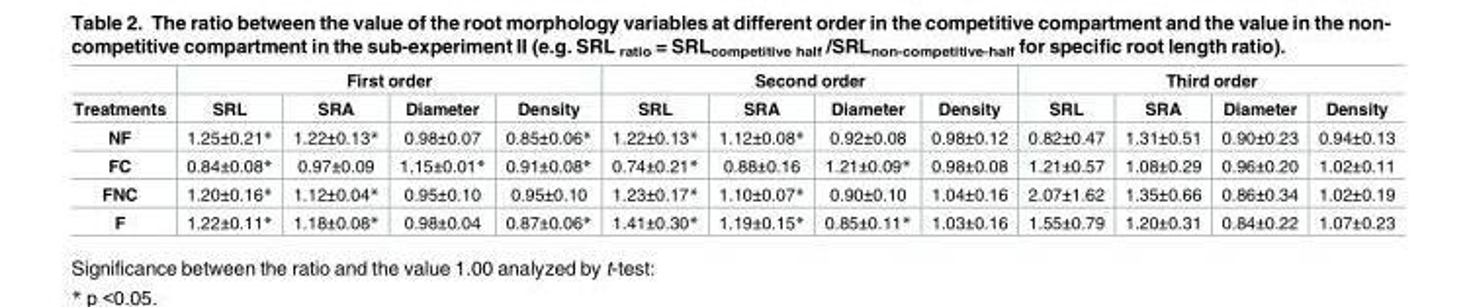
<table><thead><tr><td rowspan="2">Treatments</td><td colspan="4">First order</td><td colspan="4">Second order</td><td colspan="4">Third order</td></tr><tr><td>SRL</td><td>SRA</td><td>Diameter</td><td>Density</td><td>SRL</td><td>SRA</td><td>Diameter</td><td>Density</td><td>SRL</td><td>SRA</td><td>Diameter</td><td>Density</td></tr></thead><tbody><tr><td>NF</td><td>1.25±0.21*</td><td>1.22±0.13*</td><td>0.98±0.07</td><td>0.85±0.06*</td><td>1.22±0.13*</td><td>1.12±0.08*</td><td>0.92±0.08</td><td>0.98±0.12</td><td>0.82±0.47</td><td>1.31±0.51</td><td>0.90±0.23</td><td>0.94±0.13</td></tr><tr><td>FC</td><td>0.84±0.08*</td><td>0.97±0.09</td><td>1.15±0.01*</td><td>0.91±0.08*</td><td>0.74±0.21*</td><td>0.88±0.16</td><td>1.21±0.09*</td><td>0.98±0.08</td><td>1.21±0.57</td><td>1.08±0.29</td><td>0.96±0.20</td><td>1.02±0.11</td></tr><tr><td>FNC</td><td>1.20±0.16*</td><td>1.12±0.04*</td><td>0.95±0.10</td><td>0.95±0.10</td><td>1.23±0.17*</td><td>1.10±0.07*</td><td>0.90±0.10</td><td>1.04±0.16</td><td>2.07±1.62</td><td>1.35±0.66</td><td>0.86±0.34</td><td>1.02±0.19</td></tr><tr><td>F</td><td>1.22±0.11*</td><td>1.18±0.08*</td><td>0.98±0.04</td><td>0.87±0.06*</td><td>1.41±0.30*</td><td>1.19±0.15*</td><td>0.85±0.11*</td><td>1.03±0.16</td><td>1.55±0.79</td><td>1.20±0.31</td><td>0.84±0.22</td><td>1.07±0.23</td></tr></tbody></table>